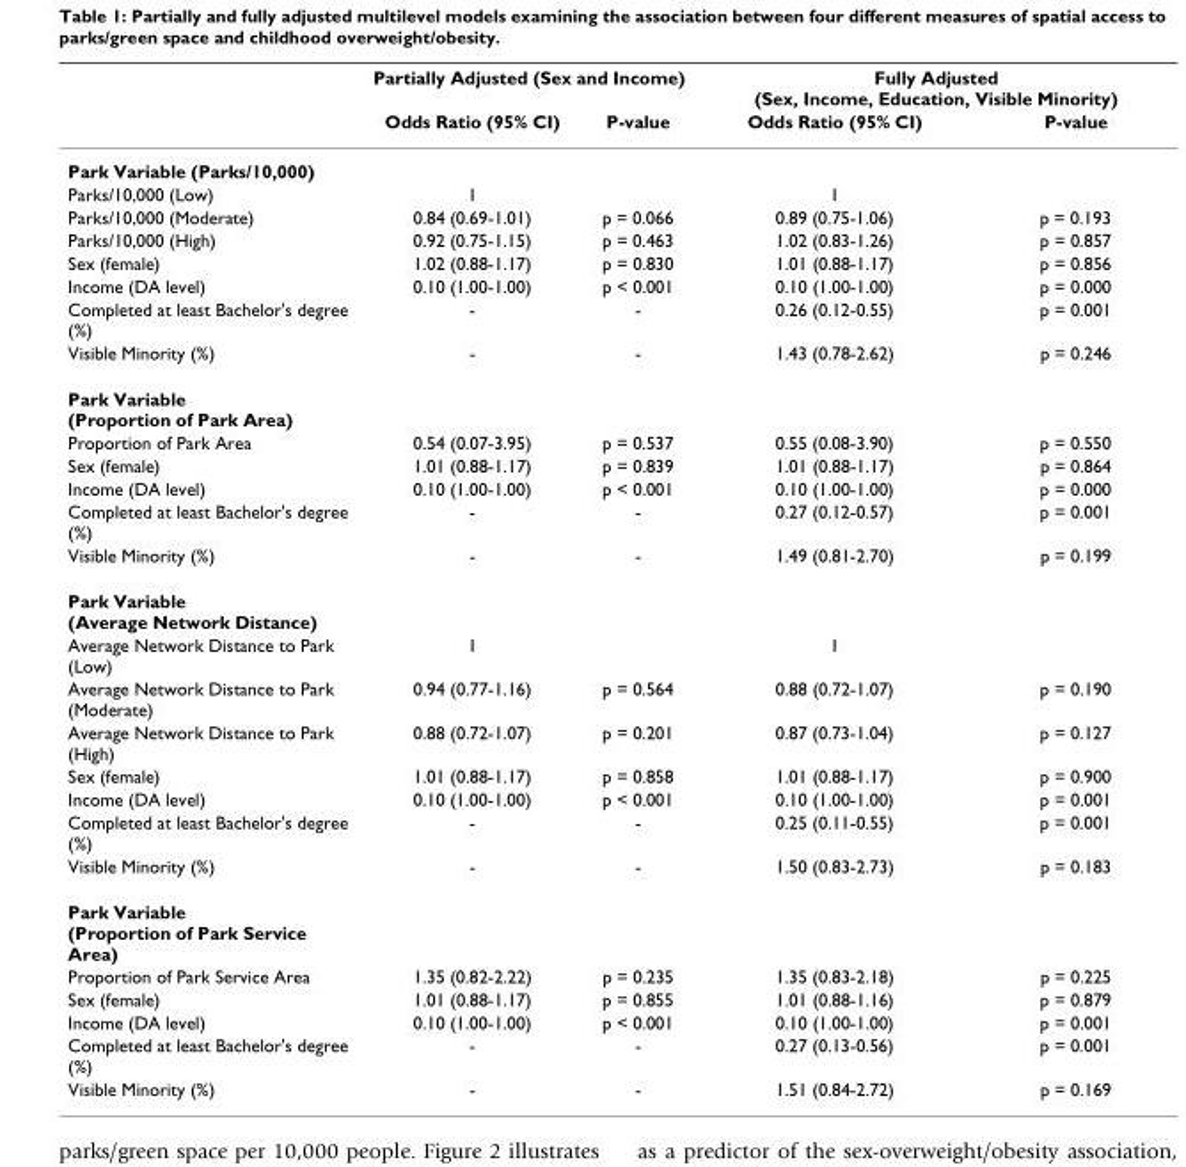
<table><thead><tr><td rowspan="2"></td><td colspan="2">Partially Adjusted (Sex and Income)</td><td colspan="2">Fully Adjusted (Sex, Income, Education, Visible Minority)</td></tr><tr><td>Odds Ratio (95% CI)</td><td>P-value</td><td>Odds Ratio (95% CI)</td><td>P-value</td></tr></thead><tbody><tr><td colspan="5">Park Variable (Parks/10,000)</td></tr><tr><td>Parks/10,000 (Low)</td><td>1</td><td></td><td>1</td><td></td></tr><tr><td>Parks/10,000 (Moderate)</td><td>0.84 (0.69-1.01)</td><td>p = 0.066</td><td>0.89 (0.75-1.06)</td><td>p = 0.193</td></tr><tr><td>Parks/10,000 (High)</td><td>0.92 (0.75-1.15)</td><td>p = 0.463</td><td>1.02 (0.83-1.26)</td><td>p = 0.857</td></tr><tr><td>Sex (female)</td><td>1.02 (0.88-1.17)</td><td>p = 0.830</td><td>1.01 (0.88-1.17)</td><td>p = 0.856</td></tr><tr><td>Income (DA level)</td><td>0.10 (1.00-1.00)</td><td>p &lt; 0.001</td><td>0.10 (1.00-1.00)</td><td>p = 0.000</td></tr><tr><td>Completed at least Bachelor&#x27;s degree (%)</td><td>-</td><td>-</td><td>0.26 (0.12-0.55)</td><td>p = 0.001</td></tr><tr><td>Visible Minority (%)</td><td>-</td><td>-</td><td>1.43 (0.78-2.62)</td><td>p = 0.246</td></tr><tr><td colspan="5">Park Variable (Proportion of Park Area)</td></tr><tr><td>Proportion of Park Area</td><td>0.54 (0.07-3.95)</td><td>p = 0.537</td><td>0.55 (0.08-3.90)</td><td>p = 0.550</td></tr><tr><td>Sex (female)</td><td>1.01 (0.88-1.17)</td><td>p = 0.839</td><td>1.01 (0.88-1.17)</td><td>p = 0.864</td></tr><tr><td>Income (DA level)</td><td>0.10 (1.00-1.00)</td><td>p &lt; 0.001</td><td>0.10 (1.00-1.00)</td><td>p = 0.000</td></tr><tr><td>Completed at least Bachelor&#x27;s degree (%)</td><td>-</td><td>-</td><td>0.27 (0.12-0.57)</td><td>p = 0.001</td></tr><tr><td>Visible Minority (%)</td><td>-</td><td>-</td><td>1.49 (0.81-2.70)</td><td>p = 0.199</td></tr><tr><td colspan="5">Park Variable (Average Network Distance)</td></tr><tr><td>Average Network Distance to Park (Low)</td><td>1</td><td></td><td>1</td><td></td></tr><tr><td>Average Network Distance to Park (Moderate)</td><td>0.94 (0.77-1.16)</td><td>p = 0.564</td><td>0.88 (0.72-1.07)</td><td>p = 0.190</td></tr><tr><td>Average Network Distance to Park (High)</td><td>0.88 (0.72-1.07)</td><td>p = 0.201</td><td>0.87 (0.73-1.04)</td><td>p = 0.127</td></tr><tr><td>Sex (female)</td><td>1.01 (0.88-1.17)</td><td>p = 0.858</td><td>1.01 (0.88-1.17)</td><td>p = 0.900</td></tr><tr><td>Income (DA level)</td><td>0.10 (1.00-1.00)</td><td>p &lt; 0.001</td><td>0.10 (1.00-1.00)</td><td>p = 0.001</td></tr><tr><td>Completed at least Bachelor&#x27;s degree (%)</td><td>-</td><td>-</td><td>0.25 (0.11-0.55)</td><td>p = 0.001</td></tr><tr><td>Visible Minority (%)</td><td>-</td><td>-</td><td>1.50 (0.83-2.73)</td><td>p = 0.183</td></tr><tr><td colspan="5">Park Variable (Proportion of Park Service Area)</td></tr><tr><td>Proportion of Park Service Area</td><td>1.35 (0.82-2.22)</td><td>p = 0.235</td><td>1.35 (0.83-2.18)</td><td>p = 0.225</td></tr><tr><td>Sex (female)</td><td>1.01 (0.88-1.17)</td><td>p = 0.855</td><td>1.01 (0.88-1.16)</td><td>p = 0.879</td></tr><tr><td>Income (DA level)</td><td>0.10 (1.00-1.00)</td><td>p &lt; 0.001</td><td>0.10 (1.00-1.00)</td><td>p = 0.001</td></tr><tr><td>Completed at least Bachelor&#x27;s degree (%)</td><td>-</td><td>-</td><td>0.27 (0.13-0.56)</td><td>p = 0.001</td></tr><tr><td>Visible Minority (%)</td><td>-</td><td>-</td><td>1.51 (0.84-2.72)</td><td>p = 0.169</td></tr></tbody></table>